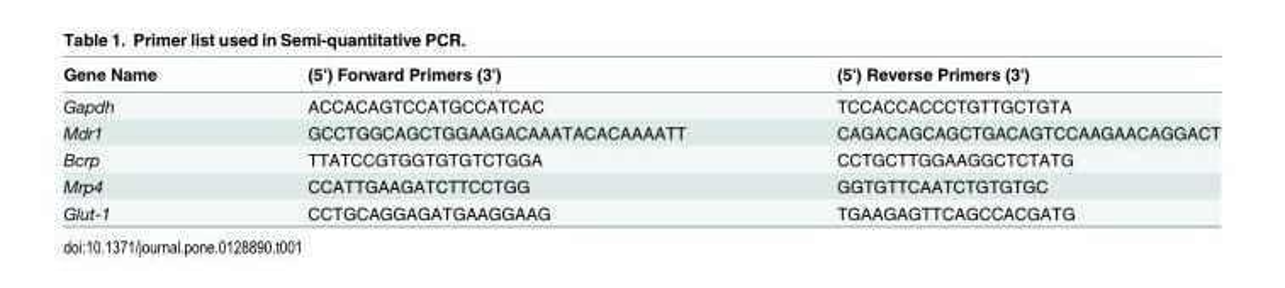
<table><thead><tr><td>Gene Name</td><td>(5&#x27;) Forward Primers (3&#x27;)</td><td>(5&#x27;) Reverse Primers (3&#x27;)</td></tr></thead><tbody><tr><td>Gapdh</td><td>ACCACAGTCCATGCCATCAC</td><td>TCCACCACCCTGTTGCTGTA</td></tr><tr><td>Mdr1</td><td>GCCTGGCAGCTGGAAGACAAATACACAAAATT</td><td>CAGACAGCAGCTGACAGTCCAAGAACAGGACT</td></tr><tr><td>Bcrp</td><td>TTATCCGTGGTGTGTCTGGA</td><td>CCTGCTTGGAAGGCTCTATG</td></tr><tr><td>Mrp4</td><td>CCATTGAAGATCTTCCTGG</td><td>GGTGTTCAATCTGTGTGC</td></tr><tr><td>Glut-1</td><td>CCTGCAGGAGATGAAGGAAG</td><td>TGAAGAGTTCAGCCACGATG</td></tr></tbody></table>